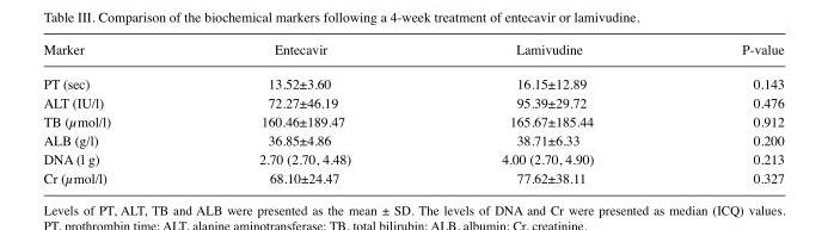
<table><thead><tr><td>Marker</td><td>Entecavir</td><td>Lamivudine</td><td>P‑value</td></tr></thead><tbody><tr><td>PT (sec)</td><td>13.52±3.60</td><td>16.15±12.89</td><td>0.143</td></tr><tr><td>ALT (IU/l)</td><td>72.27±46.19</td><td>95.39±29.72</td><td>0.476</td></tr><tr><td>TB (µmol/l)</td><td>160.46±189.47</td><td>165.67±185.44</td><td>0.912</td></tr><tr><td>ALB (g/l)</td><td>36.85±4.86</td><td>38.71±6.33</td><td>0.200</td></tr><tr><td>DNA (l g)</td><td>2.70 (2.70, 4.48)</td><td>4.00 (2.70, 4.90)</td><td>0.213</td></tr><tr><td>Cr (µmol/l)</td><td>68.10±24.47</td><td>77.62±38.11</td><td>0.327</td></tr></tbody></table>